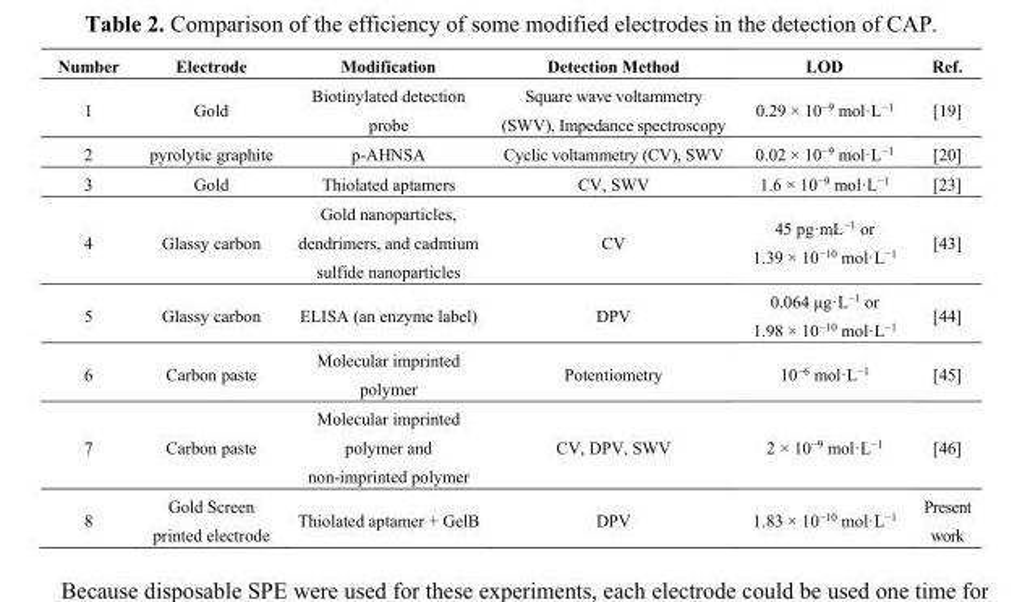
<table><thead><tr><td>Number</td><td>Electrode</td><td>Modification</td><td>Detection Method</td><td>LOD</td><td>Ref.</td></tr></thead><tbody><tr><td>1</td><td>Gold</td><td>Biotinylated detection probe</td><td>Square wave voltammetry (SWV), Impedance spectroscopy</td><td>0.29 × 10<sup>−9</sup> mol·L<sup>−1</sup></td><td>[19]</td></tr><tr><td>2</td><td>pyrolytic graphite</td><td>p-AHNSA</td><td>Cyclic voltammetry (CV), SWV</td><td>0.02 × 10<sup>−9</sup> mol·L<sup>−1</sup></td><td>[20]</td></tr><tr><td>3</td><td>Gold</td><td>Thiolated aptamers</td><td>CV, SWV</td><td>1.6 × 10<sup>−9</sup> mol·L<sup>−1</sup></td><td>[23]</td></tr><tr><td>4</td><td>Glassy carbon</td><td>Gold nanoparticles, dendrimers, and cadmium sulfide nanoparticles</td><td>CV</td><td>45 pg·mL<sup>−1</sup> or 1.39 × 10<sup>−10</sup> mol·L<sup>−1</sup></td><td>[43]</td></tr><tr><td>5</td><td>Glassy carbon</td><td>ELISA (an enzyme label)</td><td>DPV</td><td>0.064 μg·L<sup>−1</sup> or 1.98 × 10<sup>−10</sup> mol·L<sup>−1</sup></td><td>[44]</td></tr><tr><td>6</td><td>Carbon paste</td><td>Molecular imprinted polymer</td><td>Potentiometry</td><td>10<sup>−6</sup> mol·L<sup>−1</sup></td><td>[45]</td></tr><tr><td>7</td><td>Carbon paste</td><td>Molecular imprinted polymer and non-imprinted polymer</td><td>CV, DPV, SWV</td><td>2 × 10<sup>−9</sup> mol·L<sup>−1</sup></td><td>[46]</td></tr><tr><td>8</td><td>Gold Screen printed electrode</td><td>Thiolated aptamer + GelB</td><td>DPV</td><td>1.83 × 10<sup>−10</sup> mol·L<sup>−1</sup></td><td>Present work</td></tr></tbody></table>